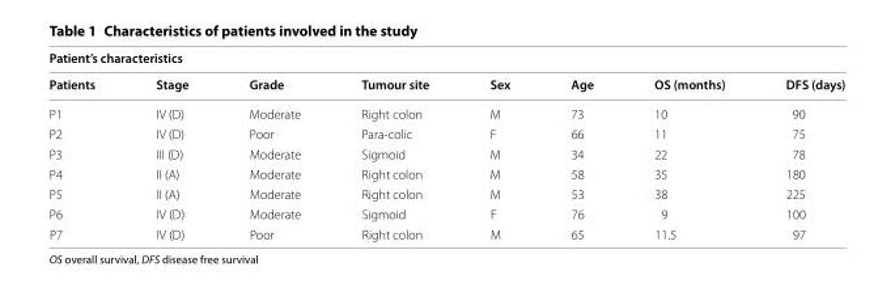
<table><thead><tr><td colspan="8">Patient’s characteristics</td></tr><tr><td>Patients</td><td>Stage</td><td>Grade</td><td>Tumour site</td><td>Sex</td><td>Age</td><td>OS (months)</td><td>DFS (days)</td></tr></thead><tbody><tr><td>P1</td><td>IV (D)</td><td>Moderate</td><td>Right colon</td><td>M</td><td>73</td><td>10</td><td>90</td></tr><tr><td>P2</td><td>IV (D)</td><td>Poor</td><td>Para-colic</td><td>F</td><td>66</td><td>11</td><td>75</td></tr><tr><td>P3</td><td>III (D)</td><td>Moderate</td><td>Sigmoid</td><td>M</td><td>34</td><td>22</td><td>78</td></tr><tr><td>P4</td><td>II (A)</td><td>Moderate</td><td>Right colon</td><td>M</td><td>58</td><td>35</td><td>180</td></tr><tr><td>P5</td><td>II (A)</td><td>Moderate</td><td>Right colon</td><td>M</td><td>53</td><td>38</td><td>225</td></tr><tr><td>P6</td><td>IV (D)</td><td>Moderate</td><td>Sigmoid</td><td>F</td><td>76</td><td>9</td><td>100</td></tr><tr><td>P7</td><td>IV (D)</td><td>Poor</td><td>Right colon</td><td>M</td><td>65</td><td>11.5</td><td>97</td></tr></tbody></table>